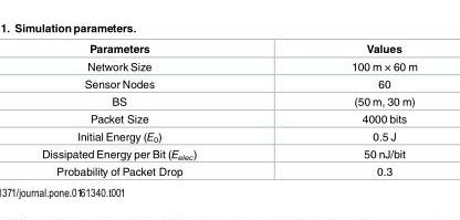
<table><thead><tr><td>Parameters</td><td>Values</td></tr></thead><tbody><tr><td>Network Size</td><td>100 m × 60 m</td></tr><tr><td>Sensor Nodes</td><td>60</td></tr><tr><td>BS</td><td>(50 m, 30 m)</td></tr><tr><td>Packet Size</td><td>4000 bits</td></tr><tr><td>Initial Energy (E<sub>0</sub>)</td><td>0.5 J</td></tr><tr><td>Dissipated Energy per Bit (E<sub>elec</sub>)</td><td>50 nJ/bit</td></tr><tr><td>Probability of Packet Drop</td><td>0.3</td></tr></tbody></table>